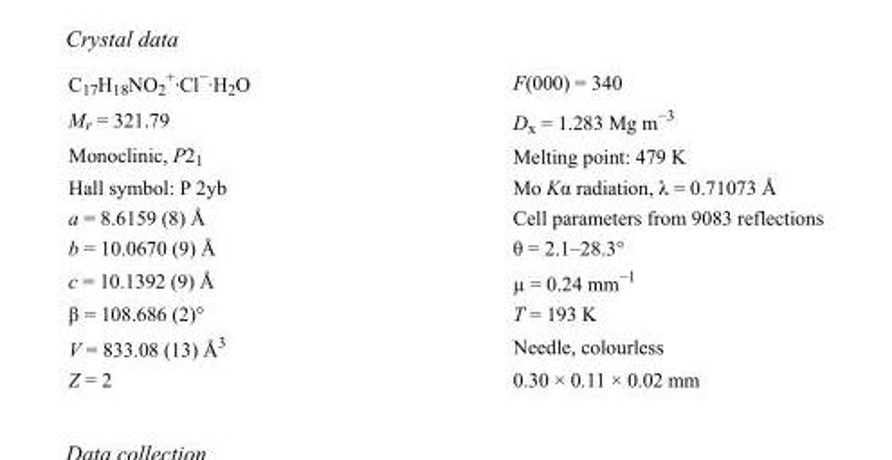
<table><tbody><tr><td>C<sub>17</sub>H<sub>18</sub>NO<sub>2</sub> <sup>+</sup>·Cl<sup>−</sup>·H<sub>2</sub>O</td><td>F(000) = 340</td></tr><tr><td>M<sub>r</sub> = 321.79</td><td>D<sub>x</sub> = 1.283 Mg m<sup>−3</sup></td></tr><tr><td>Monoclinic, P2<sub>1</sub></td><td>Melting point: 479 K</td></tr><tr><td>Hall symbol: P 2yb</td><td>Mo Kα radiation, λ = 0.71073 Å</td></tr><tr><td>a = 8.6159 (8) Å</td><td>Cell parameters from 9083 reflections</td></tr><tr><td>b = 10.0670 (9) Å</td><td>θ = 2.1–28.3°</td></tr><tr><td>c = 10.1392 (9) Å</td><td>µ = 0.24 mm<sup>−1</sup></td></tr><tr><td>β = 108.686 (2)°</td><td>T = 193 K</td></tr><tr><td>V = 833.08 (13) Å<sup>3</sup></td><td>Needle, colourless</td></tr><tr><td>Z = 2</td><td>0.30 × 0.11 × 0.02 mm</td></tr></tbody></table>